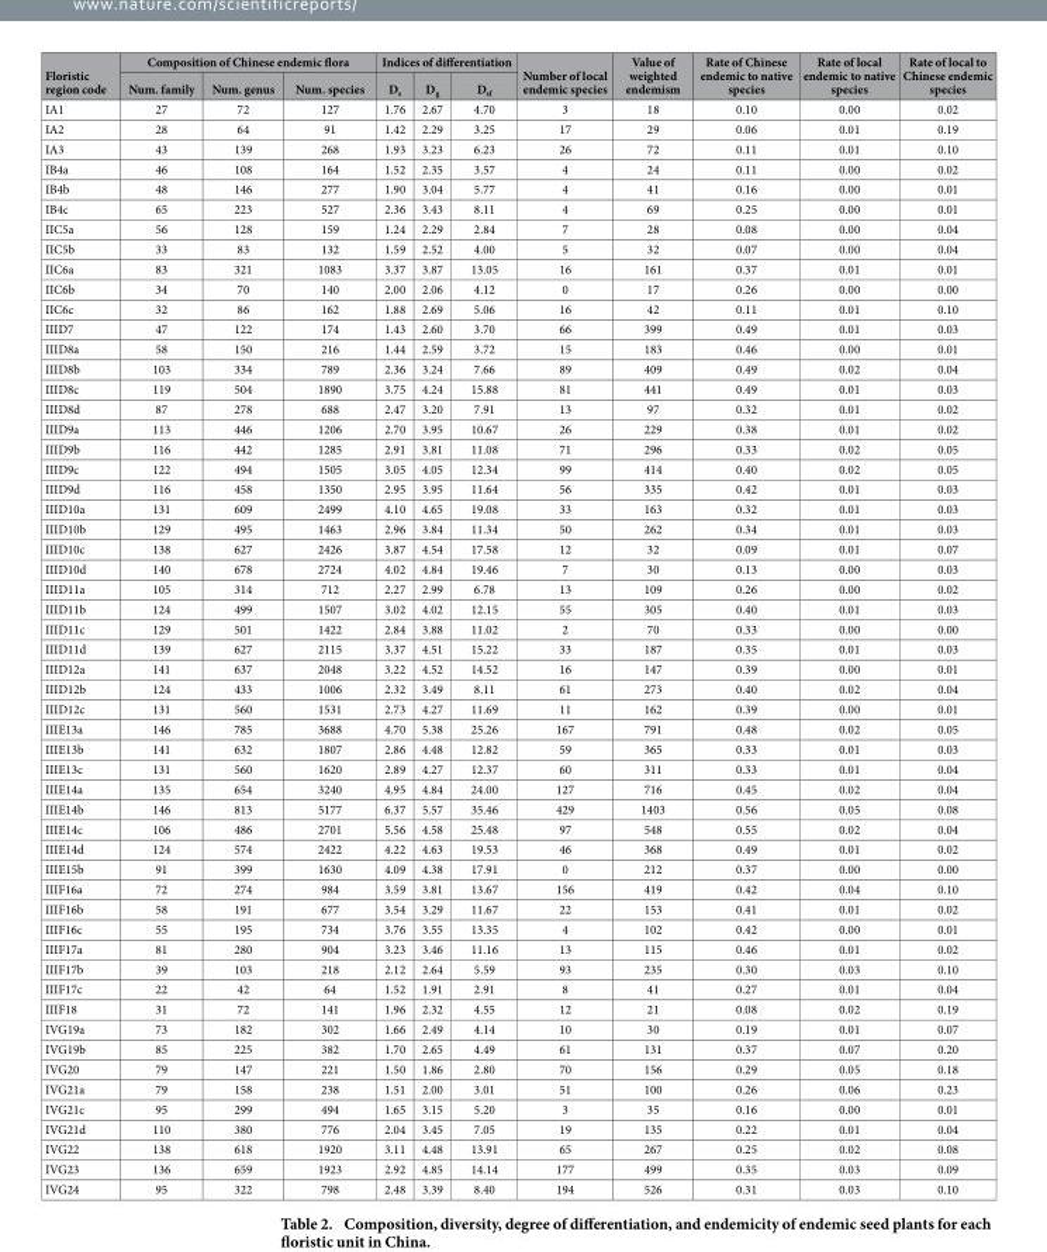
<table><thead><tr><td rowspan="2">Floristic region code</td><td colspan="3">Composition of Chinese endemic flora</td><td colspan="3">Indices of differentiation</td><td rowspan="2">Number of local endemic species</td><td rowspan="2">Value of weighted endemism</td><td rowspan="2">Rate of Chinese endemic to native species</td><td rowspan="2">Rate of local endemic to native species</td><td rowspan="2">Rate of local to Chinese endemic species</td></tr><tr><td>Num. family</td><td>Num. genus</td><td>Num. species</td><td>D<sub>s</sub></td><td>D<sub>g</sub></td><td>D<sub>sf</sub></td></tr></thead><tbody><tr><td>IA1</td><td>27</td><td>72</td><td>127</td><td>1.76</td><td>2.67</td><td>4.70</td><td>3</td><td>18</td><td>0.10</td><td>0.00</td><td>0.02</td></tr><tr><td>IA2</td><td>28</td><td>64</td><td>91</td><td>1.42</td><td>2.29</td><td>3.25</td><td>17</td><td>29</td><td>0.06</td><td>0.01</td><td>0.19</td></tr><tr><td>IA3</td><td>43</td><td>139</td><td>268</td><td>1.93</td><td>3.23</td><td>6.23</td><td>26</td><td>72</td><td>0.11</td><td>0.01</td><td>0.10</td></tr><tr><td>IB4a</td><td>46</td><td>108</td><td>164</td><td>1.52</td><td>2.35</td><td>3.57</td><td>4</td><td>24</td><td>0.11</td><td>0.00</td><td>0.02</td></tr><tr><td>IB4b</td><td>48</td><td>146</td><td>277</td><td>1.90</td><td>3.04</td><td>5.77</td><td>4</td><td>41</td><td>0.16</td><td>0.00</td><td>0.01</td></tr><tr><td>IB4c</td><td>65</td><td>223</td><td>527</td><td>2.36</td><td>3.43</td><td>8.11</td><td>4</td><td>69</td><td>0.25</td><td>0.00</td><td>0.01</td></tr><tr><td>IIC5a</td><td>56</td><td>128</td><td>159</td><td>1.24</td><td>2.29</td><td>2.84</td><td>7</td><td>28</td><td>0.08</td><td>0.00</td><td>0.04</td></tr><tr><td>IIC5b</td><td>33</td><td>83</td><td>132</td><td>1.59</td><td>2.52</td><td>4.00</td><td>5</td><td>32</td><td>0.07</td><td>0.00</td><td>0.04</td></tr><tr><td>IIC6a</td><td>83</td><td>321</td><td>1083</td><td>3.37</td><td>3.87</td><td>13.05</td><td>16</td><td>161</td><td>0.37</td><td>0.01</td><td>0.01</td></tr><tr><td>IIC6b</td><td>34</td><td>70</td><td>140</td><td>2.00</td><td>2.06</td><td>4.12</td><td>0</td><td>17</td><td>0.26</td><td>0.00</td><td>0.00</td></tr><tr><td>IIC6c</td><td>32</td><td>86</td><td>162</td><td>1.88</td><td>2.69</td><td>5.06</td><td>16</td><td>42</td><td>0.11</td><td>0.01</td><td>0.10</td></tr><tr><td>IIID7</td><td>47</td><td>122</td><td>174</td><td>1.43</td><td>2.60</td><td>3.70</td><td>66</td><td>399</td><td>0.49</td><td>0.01</td><td>0.03</td></tr><tr><td>IIID8a</td><td>58</td><td>150</td><td>216</td><td>1.44</td><td>2.59</td><td>3.72</td><td>15</td><td>183</td><td>0.46</td><td>0.00</td><td>0.01</td></tr><tr><td>IIID8b</td><td>103</td><td>334</td><td>789</td><td>2.36</td><td>3.24</td><td>7.66</td><td>89</td><td>409</td><td>0.49</td><td>0.02</td><td>0.04</td></tr><tr><td>IIID8c</td><td>119</td><td>504</td><td>1890</td><td>3.75</td><td>4.24</td><td>15.88</td><td>81</td><td>441</td><td>0.49</td><td>0.01</td><td>0.03</td></tr><tr><td>IIID8d</td><td>87</td><td>278</td><td>688</td><td>2.47</td><td>3.20</td><td>7.91</td><td>13</td><td>97</td><td>0.32</td><td>0.01</td><td>0.02</td></tr><tr><td>IIID9a</td><td>113</td><td>446</td><td>1206</td><td>2.70</td><td>3.95</td><td>10.67</td><td>26</td><td>229</td><td>0.38</td><td>0.01</td><td>0.02</td></tr><tr><td>IIID9b</td><td>116</td><td>442</td><td>1285</td><td>2.91</td><td>3.81</td><td>11.08</td><td>71</td><td>296</td><td>0.33</td><td>0.02</td><td>0.05</td></tr><tr><td>IIID9c</td><td>122</td><td>494</td><td>1505</td><td>3.05</td><td>4.05</td><td>12.34</td><td>99</td><td>414</td><td>0.40</td><td>0.02</td><td>0.05</td></tr><tr><td>IIID9d</td><td>116</td><td>458</td><td>1350</td><td>2.95</td><td>3.95</td><td>11.64</td><td>56</td><td>335</td><td>0.42</td><td>0.01</td><td>0.03</td></tr><tr><td>IIID10a</td><td>131</td><td>609</td><td>2499</td><td>4.10</td><td>4.65</td><td>19.08</td><td>33</td><td>163</td><td>0.32</td><td>0.01</td><td>0.03</td></tr><tr><td>IIID10b</td><td>129</td><td>495</td><td>1463</td><td>2.96</td><td>3.84</td><td>11.34</td><td>50</td><td>262</td><td>0.34</td><td>0.01</td><td>0.03</td></tr><tr><td>IIID10c</td><td>138</td><td>627</td><td>2426</td><td>3.87</td><td>4.54</td><td>17.58</td><td>12</td><td>32</td><td>0.09</td><td>0.01</td><td>0.07</td></tr><tr><td>IIID10d</td><td>140</td><td>678</td><td>2724</td><td>4.02</td><td>4.84</td><td>19.46</td><td>7</td><td>30</td><td>0.13</td><td>0.00</td><td>0.03</td></tr><tr><td>IIID11a</td><td>105</td><td>314</td><td>712</td><td>2.27</td><td>2.99</td><td>6.78</td><td>13</td><td>109</td><td>0.26</td><td>0.00</td><td>0.02</td></tr><tr><td>IIID11b</td><td>124</td><td>499</td><td>1507</td><td>3.02</td><td>4.02</td><td>12.15</td><td>55</td><td>305</td><td>0.40</td><td>0.01</td><td>0.03</td></tr><tr><td>IIID11c</td><td>129</td><td>501</td><td>1422</td><td>2.84</td><td>3.88</td><td>11.02</td><td>2</td><td>70</td><td>0.33</td><td>0.00</td><td>0.00</td></tr><tr><td>IIID11d</td><td>139</td><td>627</td><td>2115</td><td>3.37</td><td>4.51</td><td>15.22</td><td>33</td><td>187</td><td>0.35</td><td>0.01</td><td>0.03</td></tr><tr><td>IIID12a</td><td>141</td><td>637</td><td>2048</td><td>3.22</td><td>4.52</td><td>14.52</td><td>16</td><td>147</td><td>0.39</td><td>0.00</td><td>0.01</td></tr><tr><td>IIID12b</td><td>124</td><td>433</td><td>1006</td><td>2.32</td><td>3.49</td><td>8.11</td><td>61</td><td>273</td><td>0.40</td><td>0.02</td><td>0.04</td></tr><tr><td>IIID12c</td><td>131</td><td>560</td><td>1531</td><td>2.73</td><td>4.27</td><td>11.69</td><td>11</td><td>162</td><td>0.39</td><td>0.00</td><td>0.01</td></tr><tr><td>IIIE13a</td><td>146</td><td>785</td><td>3688</td><td>4.70</td><td>5.38</td><td>25.26</td><td>167</td><td>791</td><td>0.48</td><td>0.02</td><td>0.05</td></tr><tr><td>IIIE13b</td><td>141</td><td>632</td><td>1807</td><td>2.86</td><td>4.48</td><td>12.82</td><td>59</td><td>365</td><td>0.33</td><td>0.01</td><td>0.03</td></tr><tr><td>IIIE13c</td><td>131</td><td>560</td><td>1620</td><td>2.89</td><td>4.27</td><td>12.37</td><td>60</td><td>311</td><td>0.33</td><td>0.01</td><td>0.04</td></tr><tr><td>IIIE14a</td><td>135</td><td>654</td><td>3240</td><td>4.95</td><td>4.84</td><td>24.00</td><td>127</td><td>716</td><td>0.45</td><td>0.02</td><td>0.04</td></tr><tr><td>IIIE14b</td><td>146</td><td>813</td><td>5177</td><td>6.37</td><td>5.57</td><td>35.46</td><td>429</td><td>1403</td><td>0.56</td><td>0.05</td><td>0.08</td></tr><tr><td>IIIE14c</td><td>106</td><td>486</td><td>2701</td><td>5.56</td><td>4.58</td><td>25.48</td><td>97</td><td>548</td><td>0.55</td><td>0.02</td><td>0.04</td></tr><tr><td>IIIE14d</td><td>124</td><td>574</td><td>2422</td><td>4.22</td><td>4.63</td><td>19.53</td><td>46</td><td>368</td><td>0.49</td><td>0.01</td><td>0.02</td></tr><tr><td>IIIE15b</td><td>91</td><td>399</td><td>1630</td><td>4.09</td><td>4.38</td><td>17.91</td><td>0</td><td>212</td><td>0.37</td><td>0.00</td><td>0.00</td></tr><tr><td>IIIF16a</td><td>72</td><td>274</td><td>984</td><td>3.59</td><td>3.81</td><td>13.67</td><td>156</td><td>419</td><td>0.42</td><td>0.04</td><td>0.10</td></tr><tr><td>IIIF16b</td><td>58</td><td>191</td><td>677</td><td>3.54</td><td>3.29</td><td>11.67</td><td>22</td><td>153</td><td>0.41</td><td>0.01</td><td>0.02</td></tr><tr><td>IIIF16c</td><td>55</td><td>195</td><td>734</td><td>3.76</td><td>3.55</td><td>13.35</td><td>4</td><td>102</td><td>0.42</td><td>0.00</td><td>0.01</td></tr><tr><td>IIIF17a</td><td>81</td><td>280</td><td>904</td><td>3.23</td><td>3.46</td><td>11.16</td><td>13</td><td>115</td><td>0.46</td><td>0.01</td><td>0.02</td></tr><tr><td>IIIF17b</td><td>39</td><td>103</td><td>218</td><td>2.12</td><td>2.64</td><td>5.59</td><td>93</td><td>235</td><td>0.30</td><td>0.03</td><td>0.10</td></tr><tr><td>IIIF17c</td><td>22</td><td>42</td><td>64</td><td>1.52</td><td>1.91</td><td>2.91</td><td>8</td><td>41</td><td>0.27</td><td>0.01</td><td>0.04</td></tr><tr><td>IIIF18</td><td>31</td><td>72</td><td>141</td><td>1.96</td><td>2.32</td><td>4.55</td><td>12</td><td>21</td><td>0.08</td><td>0.02</td><td>0.19</td></tr><tr><td>IVG19a</td><td>73</td><td>182</td><td>302</td><td>1.66</td><td>2.49</td><td>4.14</td><td>10</td><td>30</td><td>0.19</td><td>0.01</td><td>0.07</td></tr><tr><td>IVG19b</td><td>85</td><td>225</td><td>382</td><td>1.70</td><td>2.65</td><td>4.49</td><td>61</td><td>131</td><td>0.37</td><td>0.07</td><td>0.20</td></tr><tr><td>IVG20</td><td>79</td><td>147</td><td>221</td><td>1.50</td><td>1.86</td><td>2.80</td><td>70</td><td>156</td><td>0.29</td><td>0.05</td><td>0.18</td></tr><tr><td>IVG21a</td><td>79</td><td>158</td><td>238</td><td>1.51</td><td>2.00</td><td>3.01</td><td>51</td><td>100</td><td>0.26</td><td>0.06</td><td>0.23</td></tr><tr><td>IVG21c</td><td>95</td><td>299</td><td>494</td><td>1.65</td><td>3.15</td><td>5.20</td><td>3</td><td>35</td><td>0.16</td><td>0.00</td><td>0.01</td></tr><tr><td>IVG21d</td><td>110</td><td>380</td><td>776</td><td>2.04</td><td>3.45</td><td>7.05</td><td>19</td><td>135</td><td>0.22</td><td>0.01</td><td>0.04</td></tr><tr><td>IVG22</td><td>138</td><td>618</td><td>1920</td><td>3.11</td><td>4.48</td><td>13.91</td><td>65</td><td>267</td><td>0.25</td><td>0.02</td><td>0.08</td></tr><tr><td>IVG23</td><td>136</td><td>659</td><td>1923</td><td>2.92</td><td>4.85</td><td>14.14</td><td>177</td><td>499</td><td>0.35</td><td>0.03</td><td>0.09</td></tr><tr><td>IVG24</td><td>95</td><td>322</td><td>798</td><td>2.48</td><td>3.39</td><td>8.40</td><td>194</td><td>526</td><td>0.31</td><td>0.03</td><td>0.10</td></tr></tbody></table>